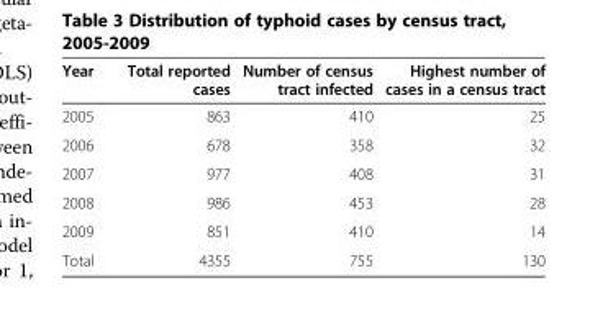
<table><thead><tr><td>Year</td><td>Total reported cases</td><td>Number of census tract infected</td><td>Highest number of cases in a census tract</td></tr></thead><tbody><tr><td>2005</td><td>863</td><td>410</td><td>25</td></tr><tr><td>2006</td><td>678</td><td>358</td><td>32</td></tr><tr><td>2007</td><td>977</td><td>408</td><td>31</td></tr><tr><td>2008</td><td>986</td><td>453</td><td>28</td></tr><tr><td>2009</td><td>851</td><td>410</td><td>14</td></tr><tr><td>Total</td><td>4355</td><td>755</td><td>130</td></tr></tbody></table>